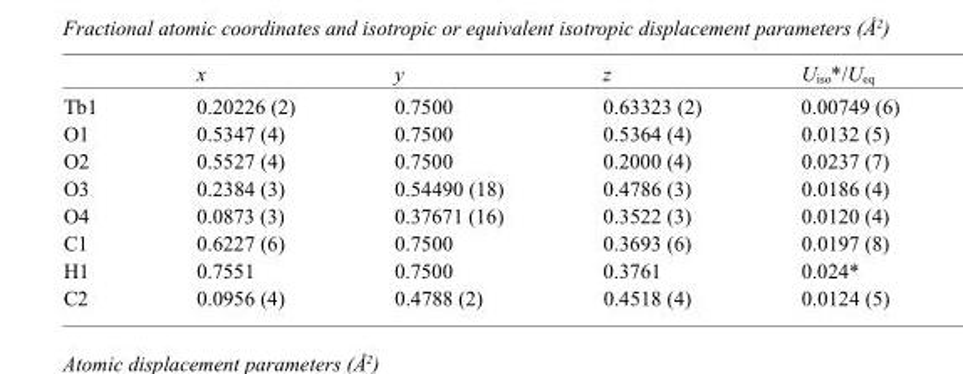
<table><thead><tr><td></td><td>x</td><td>y</td><td>z</td><td>U<sub>iso</sub>*/U<sub>eq</sub></td></tr></thead><tbody><tr><td>Tb1</td><td>0.20226 (2)</td><td>0.7500</td><td>0.63323 (2)</td><td>0.00749 (6)</td></tr><tr><td>O1</td><td>0.5347 (4)</td><td>0.7500</td><td>0.5364 (4)</td><td>0.0132 (5)</td></tr><tr><td>O2</td><td>0.5527 (4)</td><td>0.7500</td><td>0.2000 (4)</td><td>0.0237 (7)</td></tr><tr><td>O3</td><td>0.2384 (3)</td><td>0.54490 (18)</td><td>0.4786 (3)</td><td>0.0186 (4)</td></tr><tr><td>O4</td><td>0.0873 (3)</td><td>0.37671 (16)</td><td>0.3522 (3)</td><td>0.0120 (4)</td></tr><tr><td>C1</td><td>0.6227 (6)</td><td>0.7500</td><td>0.3693 (6)</td><td>0.0197 (8)</td></tr><tr><td>H1</td><td>0.7551</td><td>0.7500</td><td>0.3761</td><td>0.024*</td></tr><tr><td>C2</td><td>0.0956 (4)</td><td>0.4788 (2)</td><td>0.4518 (4)</td><td>0.0124 (5)</td></tr></tbody></table>